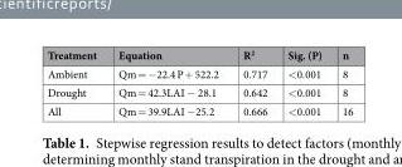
<table><thead><tr><td>Treatment</td><td>Equation</td><td>R<sup>2</sup></td><td>Sig. (P)</td><td>n</td></tr></thead><tbody><tr><td>Ambient</td><td>Qm = −22.4 P + 522.2</td><td>0.717</td><td>&lt;0.001</td><td>8</td></tr><tr><td>Drought</td><td>Qm = 42.3LAI − 28.1</td><td>0.642</td><td>&lt;0.001</td><td>8</td></tr><tr><td>All</td><td>Qm = 39.9LAI −25.2</td><td>0.666</td><td>&lt;0.001</td><td>16</td></tr></tbody></table>